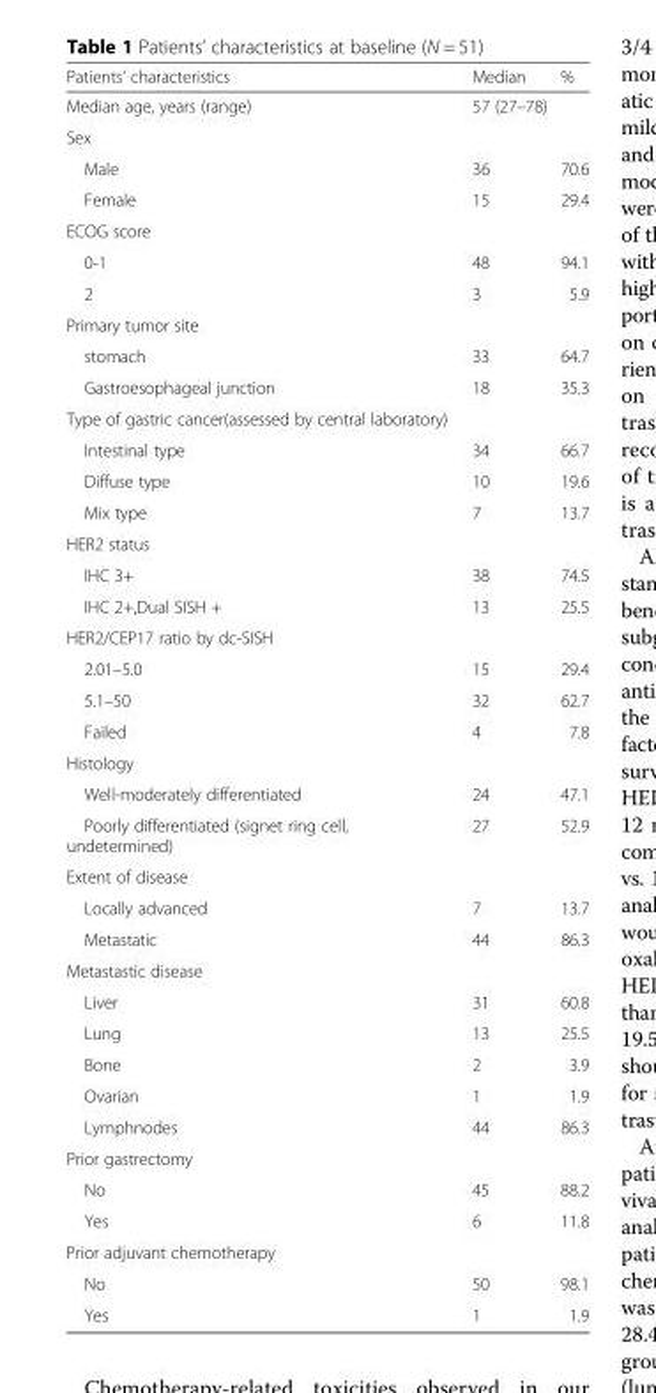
<table><thead><tr><td>Patients’ characteristics</td><td>Median</td><td>%</td></tr></thead><tbody><tr><td>Median age, years (range)</td><td>57 (27–78)</td><td></td></tr><tr><td colspan="3">Sex</td></tr><tr><td>Male</td><td>36</td><td>70.6</td></tr><tr><td>Female</td><td>15</td><td>29.4</td></tr><tr><td colspan="3">ECOG score</td></tr><tr><td>0-1</td><td>48</td><td>94.1</td></tr><tr><td>2</td><td>3</td><td>5.9</td></tr><tr><td colspan="3">Primary tumor site</td></tr><tr><td>stomach</td><td>33</td><td>64.7</td></tr><tr><td>Gastroesophageal junction</td><td>18</td><td>35.3</td></tr><tr><td colspan="3">Type of gastric cancer(assessed by central laboratory)</td></tr><tr><td>Intestinal type</td><td>34</td><td>66.7</td></tr><tr><td>Diffuse type</td><td>10</td><td>19.6</td></tr><tr><td>Mix type</td><td>7</td><td>13.7</td></tr><tr><td colspan="3">HER2 status</td></tr><tr><td>IHC 3+</td><td>38</td><td>74.5</td></tr><tr><td>IHC 2+,Dual SISH +</td><td>13</td><td>25.5</td></tr><tr><td colspan="3">HER2/CEP17 ratio by dc-SISH</td></tr><tr><td>2.01–5.0</td><td>15</td><td>29.4</td></tr><tr><td>5.1–50</td><td>32</td><td>62.7</td></tr><tr><td>Failed</td><td>4</td><td>7.8</td></tr><tr><td colspan="3">Histology</td></tr><tr><td>Well-moderately differentiated</td><td>24</td><td>47.1</td></tr><tr><td>Poorly differentiated (signet ring cell, undetermined)</td><td>27</td><td>52.9</td></tr><tr><td colspan="3">Extent of disease</td></tr><tr><td>Locally advanced</td><td>7</td><td>13.7</td></tr><tr><td>Metastatic</td><td>44</td><td>86.3</td></tr><tr><td colspan="3">Metastastic disease</td></tr><tr><td>Liver</td><td>31</td><td>60.8</td></tr><tr><td>Lung</td><td>13</td><td>25.5</td></tr><tr><td>Bone</td><td>2</td><td>3.9</td></tr><tr><td>Ovarian</td><td>1</td><td>1.9</td></tr><tr><td>Lymphnodes</td><td>44</td><td>86.3</td></tr><tr><td colspan="3">Prior gastrectomy</td></tr><tr><td>No</td><td>45</td><td>88.2</td></tr><tr><td>Yes</td><td>6</td><td>11.8</td></tr><tr><td colspan="3">Prior adjuvant chemotherapy</td></tr><tr><td>No</td><td>50</td><td>98.1</td></tr><tr><td>Yes</td><td>1</td><td>1.9</td></tr></tbody></table>